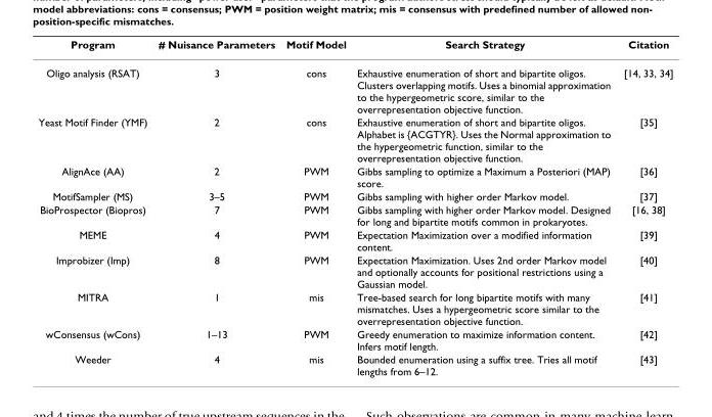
<table><thead><tr><td>Program</td><td># Nuisance Parameters</td><td>Motif Model</td><td>Search Strategy</td><td>Citation</td></tr></thead><tbody><tr><td>Oligo analysis (RSAT)</td><td>3</td><td>cons</td><td>Exhaustive enumeration of short and bipartite oligos. Clusters overlapping motifs. Uses a binomial approximation to the hypergeometric score, similar to the overrepresentation objective function.</td><td>[14, 33, 34]</td></tr><tr><td>Yeast Motif Finder (YMF)</td><td>2</td><td>cons</td><td>Exhaustive enumeration of short and bipartite oligos. Alphabet is {ACGTYR}. Uses the Normal approximation to the hypergeometric function, similar to the overrepresentation objective function.</td><td>[35]</td></tr><tr><td>AlignAce (AA)</td><td>2</td><td>PWM</td><td>Gibbs sampling to optimize a Maximum a Posteriori (MAP) score.</td><td>[36]</td></tr><tr><td>MotifSampler (MS)</td><td>3–5</td><td>PWM</td><td>Gibbs sampling with higher order Markov model.</td><td>[37]</td></tr><tr><td>BioProspector (Biopros)</td><td>7</td><td>PWM</td><td>Gibbs sampling with higher order Markov model. Designed for long and bipartite motifs common in prokaryotes.</td><td>[16, 38]</td></tr><tr><td>MEME</td><td>4</td><td>PWM</td><td>Expectation Maximization over a modified information content.</td><td>[39]</td></tr><tr><td>Improbizer (Imp)</td><td>8</td><td>PWM</td><td>Expectation Maximization. Uses 2nd order Markov model and optionally accounts for positional restrictions using a Gaussian model.</td><td>[40]</td></tr><tr><td>MITRA</td><td>1</td><td>mis</td><td>Tree-based search for long bipartite motifs with many mismatches. Uses a hypergeometric score similar to the overrepresentation objective function.</td><td>[41]</td></tr><tr><td>wConsensus (wCons)</td><td>1–13</td><td>PWM</td><td>Greedy enumeration to maximize information content. Infers motif length.</td><td>[42]</td></tr><tr><td>Weeder</td><td>4</td><td>mis</td><td>Bounded enumeration using a suffix tree. Tries all motif lengths from 6–12.</td><td>[43]</td></tr></tbody></table>